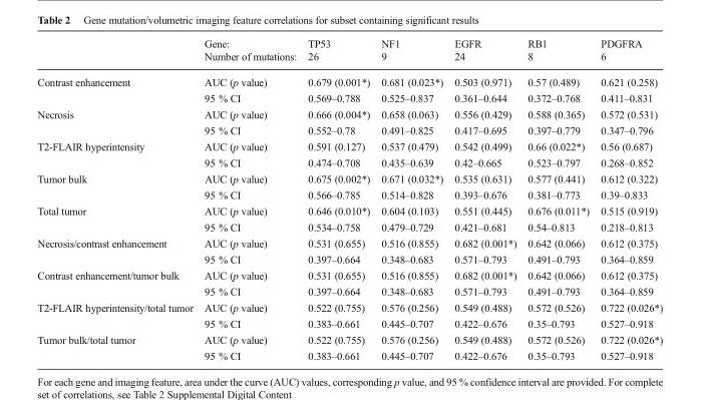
<table><thead><tr><td rowspan="2"></td><td rowspan="2">Gene: Number of mutations:</td><td rowspan="2">TP53 26</td><td rowspan="2">NF1 9</td><td rowspan="2">EGFR 24</td><td rowspan="2">RB1 8</td><td rowspan="2">PDGFRA 6</td></tr><tr></tr></thead><tbody><tr><td rowspan="2">Contrast enhancement</td><td>AUC (p value)</td><td>0.679 (0.001*)</td><td>0.681 (0.023*)</td><td>0.503 (0.971)</td><td>0.57 (0.489)</td><td>0.621 (0.258)</td></tr><tr><td>95 % CI</td><td>0.569–0.788</td><td>0.525–0.837</td><td>0.361–0.644</td><td>0.372–0.768</td><td>0.411–0.831</td></tr><tr><td rowspan="2">Necrosis</td><td>AUC (p value)</td><td>0.666 (0.004*)</td><td>0.658 (0.063)</td><td>0.556 (0.429)</td><td>0.588 (0.365)</td><td>0.572 (0.531)</td></tr><tr><td>95 % CI</td><td>0.552–0.78</td><td>0.491–0.825</td><td>0.417–0.695</td><td>0.397–0.779</td><td>0.347–0.796</td></tr><tr><td rowspan="2">T2-FLAIR hyperintensity</td><td>AUC (p value)</td><td>0.591 (0.127)</td><td>0.537 (0.479)</td><td>0.542 (0.499)</td><td>0.66 (0.022*)</td><td>0.56 (0.687)</td></tr><tr><td>95 % CI</td><td>0.474–0.708</td><td>0.435–0.639</td><td>0.42–0.665</td><td>0.523–0.797</td><td>0.268–0.852</td></tr><tr><td rowspan="2">Tumor bulk</td><td>AUC (p value)</td><td>0.675 (0.002*)</td><td>0.671 (0.032*)</td><td>0.535 (0.631)</td><td>0.577 (0.441)</td><td>0.612 (0.322)</td></tr><tr><td>95 % CI</td><td>0.566–0.785</td><td>0.514–0.828</td><td>0.393–0.676</td><td>0.381–0.773</td><td>0.39–0.833</td></tr><tr><td rowspan="2">Total tumor</td><td>AUC (p value)</td><td>0.646 (0.010*)</td><td>0.604 (0.103)</td><td>0.551 (0.445)</td><td>0.676 (0.011*)</td><td>0.515 (0.919)</td></tr><tr><td>95 % CI</td><td>0.534–0.758</td><td>0.479–0.729</td><td>0.421–0.681</td><td>0.54–0.813</td><td>0.218–0.813</td></tr><tr><td rowspan="2">Necrosis/contrast enhancement</td><td>AUC (p value)</td><td>0.531 (0.655)</td><td>0.516 (0.855)</td><td>0.682 (0.001*)</td><td>0.642 (0.066)</td><td>0.612 (0.375)</td></tr><tr><td>95 % CI</td><td>0.397–0.664</td><td>0.348–0.683</td><td>0.571–0.793</td><td>0.491–0.793</td><td>0.364–0.859</td></tr><tr><td rowspan="2">Contrast enhancement/tumor bulk</td><td>AUC (p value)</td><td>0.531 (0.655)</td><td>0.516 (0.855)</td><td>0.682 (0.001*)</td><td>0.642 (0.066)</td><td>0.612 (0.375)</td></tr><tr><td>95 % CI</td><td>0.397–0.664</td><td>0.348–0.683</td><td>0.571–0.793</td><td>0.491–0.793</td><td>0.364–0.859</td></tr><tr><td rowspan="2">T2-FLAIR hyperintensity/total tumor</td><td>AUC (p value)</td><td>0.522 (0.755)</td><td>0.576 (0.256)</td><td>0.549 (0.488)</td><td>0.572 (0.526)</td><td>0.722 (0.026*)</td></tr><tr><td>95 % CI</td><td>0.383–0.661</td><td>0.445–0.707</td><td>0.422–0.676</td><td>0.35–0.793</td><td>0.527–0.918</td></tr><tr><td rowspan="2">Tumor bulk/total tumor</td><td>AUC (p value)</td><td>0.522 (0.755)</td><td>0.576 (0.256)</td><td>0.549 (0.488)</td><td>0.572 (0.526)</td><td>0.722 (0.026*)</td></tr><tr><td>95 % CI</td><td>0.383–0.661</td><td>0.445–0.707</td><td>0.422–0.676</td><td>0.35–0.793</td><td>0.527–0.918</td></tr></tbody></table>